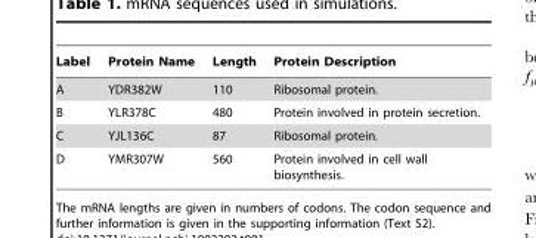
<table><thead><tr><td>Label</td><td>Protein Name</td><td>Length</td><td>Protein Description</td></tr></thead><tbody><tr><td>A</td><td>YDR382W</td><td>110</td><td>Ribosomal protein.</td></tr><tr><td>B</td><td>YLR378C</td><td>480</td><td>Protein involved in protein secretion.</td></tr><tr><td>C</td><td>YJL136C</td><td>87</td><td>Ribosomal protein.</td></tr><tr><td>D</td><td>YMR307W</td><td>560</td><td>Protein involved in cell wall biosynthesis.</td></tr></tbody></table>